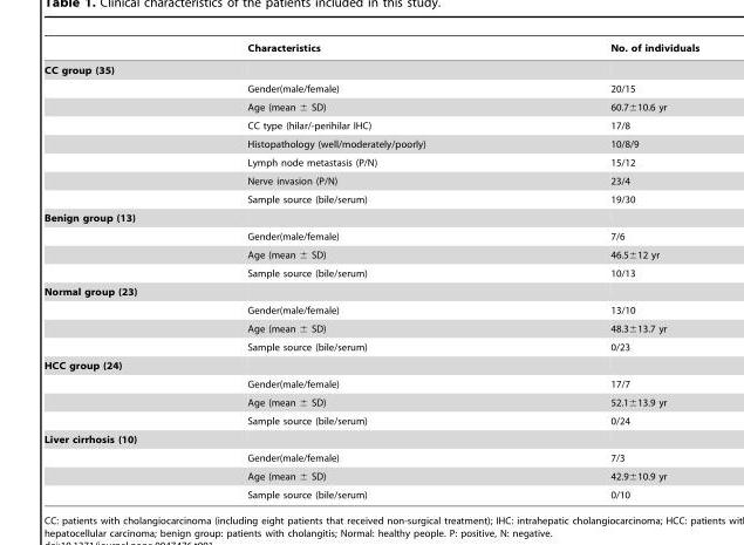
<table><thead><tr><td></td><td>Characteristics</td><td>No. of individuals</td></tr></thead><tbody><tr><td colspan="3">CC group (35)</td></tr><tr><td></td><td>Gender(male/female)</td><td>20/15</td></tr><tr><td></td><td>Age (mean ± SD)</td><td>60.7±10.6 yr</td></tr><tr><td></td><td>CC type (hilar/-perihilar IHC)</td><td>17/8</td></tr><tr><td></td><td>Histopathology (well/moderately/poorly)</td><td>10/8/9</td></tr><tr><td></td><td>Lymph node metastasis (P/N)</td><td>15/12</td></tr><tr><td></td><td>Nerve invasion (P/N)</td><td>23/4</td></tr><tr><td></td><td>Sample source (bile/serum)</td><td>19/30</td></tr><tr><td colspan="3">Benign group (13)</td></tr><tr><td></td><td>Gender(male/female)</td><td>7/6</td></tr><tr><td></td><td>Age (mean ± SD)</td><td>46.5±12 yr</td></tr><tr><td></td><td>Sample source (bile/serum)</td><td>10/13</td></tr><tr><td colspan="3">Normal group (23)</td></tr><tr><td></td><td>Gender(male/female)</td><td>13/10</td></tr><tr><td></td><td>Age (mean ± SD)</td><td>48.3±13.7 yr</td></tr><tr><td></td><td>Sample source (bile/serum)</td><td>0/23</td></tr><tr><td colspan="3">HCC group (24)</td></tr><tr><td></td><td>Gender(male/female)</td><td>17/7</td></tr><tr><td></td><td>Age (mean ± SD)</td><td>52.1±13.9 yr</td></tr><tr><td></td><td>Sample source (bile/serum)</td><td>0/24</td></tr><tr><td colspan="3">Liver cirrhosis (10)</td></tr><tr><td></td><td>Gender(male/female)</td><td>7/3</td></tr><tr><td></td><td>Age (mean ± SD)</td><td>42.9±10.9 yr</td></tr><tr><td></td><td>Sample source (bile/serum)</td><td>0/10</td></tr></tbody></table>